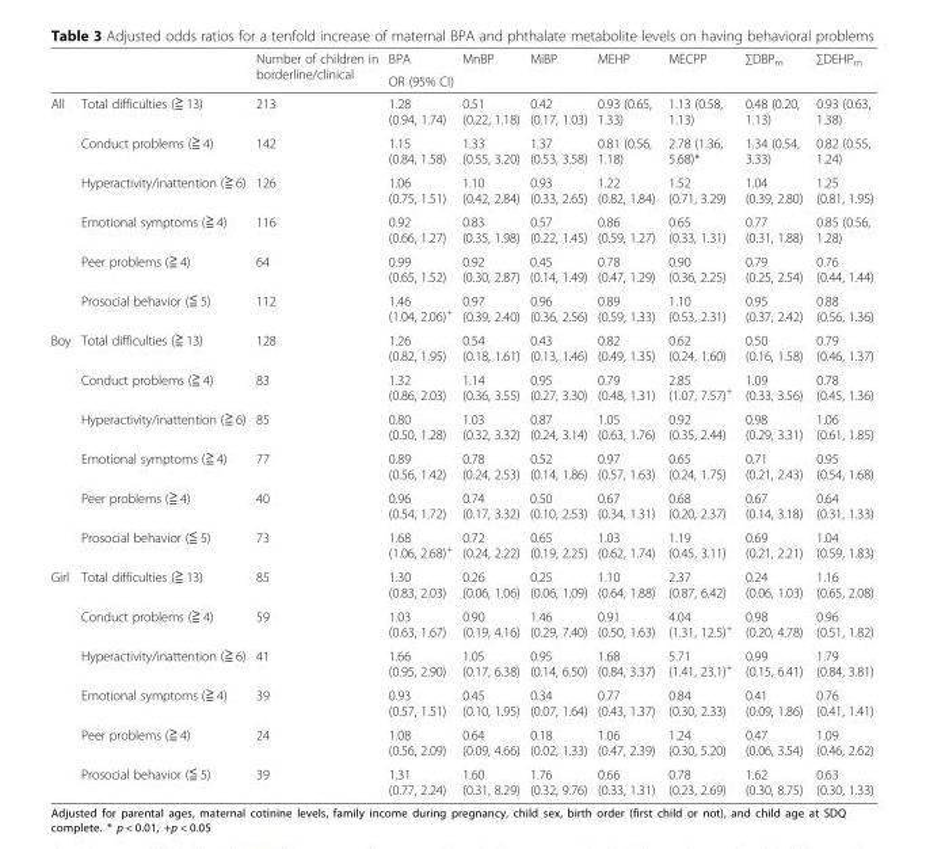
<table><thead><tr><td rowspan="2"></td><td rowspan="2"></td><td rowspan="2">Number of children in borderline/clinical</td><td>BPA</td><td>MnBP</td><td>MiBP</td><td>MEHP</td><td>MECPP</td><td>∑DBP<sub>m</sub></td><td>∑DEHP<sub>m</sub></td></tr><tr><td colspan="7">OR (95% CI)</td></tr></thead><tbody><tr><td rowspan="6">All</td><td>Total difficulties (≧ 13)</td><td>213</td><td>1.28 (0.94, 1.74)</td><td>0.51 (0.22, 1.18)</td><td>0.42 (0.17, 1.03)</td><td>0.93 (0.65, 1.33)</td><td>1.13 (0.58, 1.13)</td><td>0.48 (0.20, 1.13)</td><td>0.93 (0.63, 1.38)</td></tr><tr><td>Conduct problems (≧ 4)</td><td>142</td><td>1.15 (0.84, 1.58)</td><td>1.33 (0.55, 3.20)</td><td>1.37 (0.53, 3.58)</td><td>0.81 (0.56, 1.18)</td><td>2.78 (1.36, 5.68)*</td><td>1.34 (0.54, 3.33)</td><td>0.82 (0.55, 1.24)</td></tr><tr><td>Hyperactivity/inattention (≧ 6)</td><td>126</td><td>1.06 (0.75, 1.51)</td><td>1.10 (0.42, 2.84)</td><td>0.93 (0.33, 2.65)</td><td>1.22 (0.82, 1.84)</td><td>1.52 (0.71, 3.29)</td><td>1.04 (0.39, 2.80)</td><td>1.25 (0.81, 1.95)</td></tr><tr><td>Emotional symptoms (≧ 4)</td><td>116</td><td>0.92 (0.66, 1.27)</td><td>0.83 (0.35, 1.98)</td><td>0.57 (0.22, 1.45)</td><td>0.86 (0.59, 1.27)</td><td>0.65 (0.33, 1.31)</td><td>0.77 (0.31, 1.88)</td><td>0.85 (0.56, 1.28)</td></tr><tr><td>Peer problems (≧ 4)</td><td>64</td><td>0.99 (0.65, 1.52)</td><td>0.92 (0.30, 2.87)</td><td>0.45 (0.14, 1.49)</td><td>0.78 (0.47, 1.29)</td><td>0.90 (0.36, 2.25)</td><td>0.79 (0.25, 2.54)</td><td>0.76 (0.44, 1.44)</td></tr><tr><td>Prosocial behavior (≦ 5)</td><td>112</td><td>1.46 (1.04, 2.06)<sup>+</sup></td><td>0.97 (0.39, 2.40)</td><td>0.96 (0.36, 2.56)</td><td>0.89 (0.59, 1.33)</td><td>1.10 (0.53, 2.31)</td><td>0.95 (0.37, 2.42)</td><td>0.88 (0.56, 1.36)</td></tr><tr><td rowspan="6">Boy</td><td>Total difficulties (≧ 13)</td><td>128</td><td>1.26 (0.82, 1.95)</td><td>0.54 (0.18, 1.61)</td><td>0.43 (0.13, 1.46)</td><td>0.82 (0.49, 1.35)</td><td>0.62 (0.24, 1.60)</td><td>0.50 (0.16, 1.58)</td><td>0.79 (0.46, 1.37)</td></tr><tr><td>Conduct problems (≧ 4)</td><td>83</td><td>1.32 (0.86, 2.03)</td><td>1.14 (0.36, 3.55)</td><td>0.95 (0.27, 3.30)</td><td>0.79 (0.48, 1.31)</td><td>2.85 (1.07, 7.57)<sup>+</sup></td><td>1.09 (0.33, 3.56)</td><td>0.78 (0.45, 1.36)</td></tr><tr><td>Hyperactivity/inattention (≧ 6)</td><td>85</td><td>0.80 (0.50, 1.28)</td><td>1.03 (0.32, 3.32)</td><td>0.87 (0.24, 3.14)</td><td>1.05 (0.63, 1.76)</td><td>0.92 (0.35, 2.44)</td><td>0.98 (0.29, 3.31)</td><td>1.06 (0.61, 1.85)</td></tr><tr><td>Emotional symptoms (≧ 4)</td><td>77</td><td>0.89 (0.56, 1.42)</td><td>0.78 (0.24, 2.53)</td><td>0.52 (0.14, 1.86)</td><td>0.97 (0.57, 1.63)</td><td>0.65 (0.24, 1.75)</td><td>0.71 (0.21, 2.43)</td><td>0.95 (0.54, 1.68)</td></tr><tr><td>Peer problems (≧ 4)</td><td>40</td><td>0.96 (0.54, 1.72)</td><td>0.74 (0.17, 3.32)</td><td>0.50 (0.10, 2.53)</td><td>0.67 (0.34, 1.31)</td><td>0.68 (0.20, 2.37)</td><td>0.67 (0.14, 3.18)</td><td>0.64 (0.31, 1.33)</td></tr><tr><td>Prosocial behavior (≦ 5)</td><td>73</td><td>1.68 (1.06, 2.68)<sup>+</sup></td><td>0.72 (0.24, 2.22)</td><td>0.65 (0.19, 2.25)</td><td>1.03 (0.62, 1.74)</td><td>1.19 (0.45, 3.11)</td><td>0.69 (0.21, 2.21)</td><td>1.04 (0.59, 1.83)</td></tr><tr><td rowspan="6">Girl</td><td>Total difficulties (≧ 13)</td><td>85</td><td>1.30 (0.83, 2.03)</td><td>0.26 (0.06, 1.06)</td><td>0.25 (0.06, 1.09)</td><td>1.10 (0.64, 1.88)</td><td>2.37 (0.87, 6.42)</td><td>0.24 (0.06, 1.03)</td><td>1.16 (0.65, 2.08)</td></tr><tr><td>Conduct problems (≧ 4)</td><td>59</td><td>1.03 (0.63, 1.67)</td><td>0.90 (0.19, 4.16)</td><td>1.46 (0.29, 7.40)</td><td>0.91 (0.50, 1.63)</td><td>4.04 (1.31, 12.5)<sup>+</sup></td><td>0.98 (0.20, 4.78)</td><td>0.96 (0.51, 1.82)</td></tr><tr><td>Hyperactivity/inattention (≧ 6)</td><td>41</td><td>1.66 (0.95, 2.90)</td><td>1.05 (0.17, 6.38)</td><td>0.95 (0.14, 6.50)</td><td>1.68 (0.84, 3.37)</td><td>5.71 (1.41, 23.1)<sup>+</sup></td><td>0.99 (0.15, 6.41)</td><td>1.79 (0.84, 3.81)</td></tr><tr><td>Emotional symptoms (≧ 4)</td><td>39</td><td>0.93 (0.57, 1.51)</td><td>0.45 (0.10, 1.95)</td><td>0.34 (0.07, 1.64)</td><td>0.77 (0.43, 1.37)</td><td>0.84 (0.30, 2.33)</td><td>0.41 (0.09, 1.86)</td><td>0.76 (0.41, 1.41)</td></tr><tr><td>Peer problems (≧ 4)</td><td>24</td><td>1.08 (0.56, 2.09)</td><td>0.64 (0.09, 4.66)</td><td>0.18 (0.02, 1.33)</td><td>1.06 (0.47, 2.39)</td><td>1.24 (0.30, 5.20)</td><td>0.47 (0.06, 3.54)</td><td>1.09 (0.46, 2.62)</td></tr><tr><td>Prosocial behavior (≦ 5)</td><td>39</td><td>1.31 (0.77, 2.24)</td><td>1.60 (0.31, 8.29)</td><td>1.76 (0.32, 9.76)</td><td>0.66 (0.33, 1.31)</td><td>0.78 (0.23, 2.69)</td><td>1.62 (0.30, 8.75)</td><td>0.63 (0.30, 1.33)</td></tr></tbody></table>